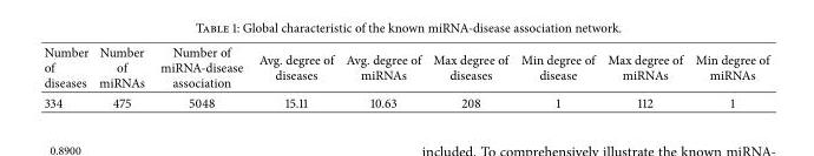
<table><thead><tr><td>Number of diseases</td><td>Number of miRNAs</td><td>Number of miRNA-disease association</td><td>Avg. degree of diseases</td><td>Avg. degree of miRNAs</td><td>Max degree of diseases</td><td>Min degree of disease</td><td>Max degree of miRNAs</td><td>Min degree of miRNAs</td></tr></thead><tbody><tr><td>334</td><td>475</td><td>5048</td><td>15.11</td><td>10.63</td><td>208</td><td>1</td><td>112</td><td>1</td></tr></tbody></table>